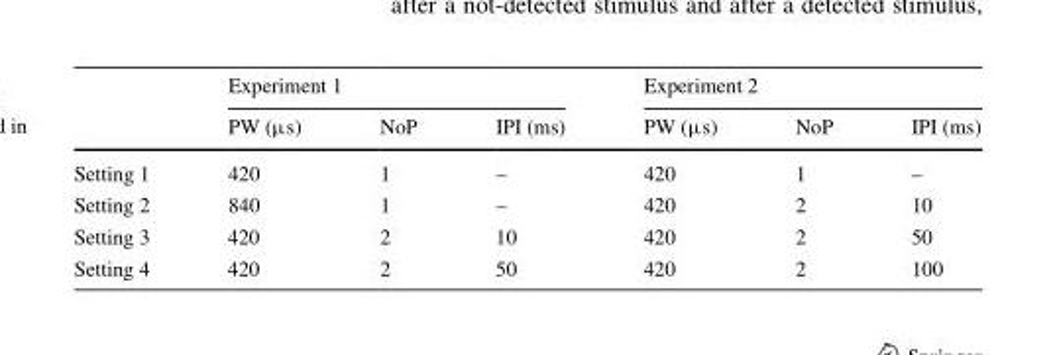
<table><thead><tr><td rowspan="2"></td><td colspan="3">Experiment 1</td><td colspan="3">Experiment 2</td></tr><tr><td>PW (μs)</td><td>NoP</td><td>IPI (ms)</td><td>PW (μs)</td><td>NoP</td><td>IPI (ms)</td></tr></thead><tbody><tr><td>Setting 1</td><td>420</td><td>1</td><td>–</td><td>420</td><td>1</td><td>–</td></tr><tr><td>Setting 2</td><td>840</td><td>1</td><td>–</td><td>420</td><td>2</td><td>10</td></tr><tr><td>Setting 3</td><td>420</td><td>2</td><td>10</td><td>420</td><td>2</td><td>50</td></tr><tr><td>Setting 4</td><td>420</td><td>2</td><td>50</td><td>420</td><td>2</td><td>100</td></tr></tbody></table>